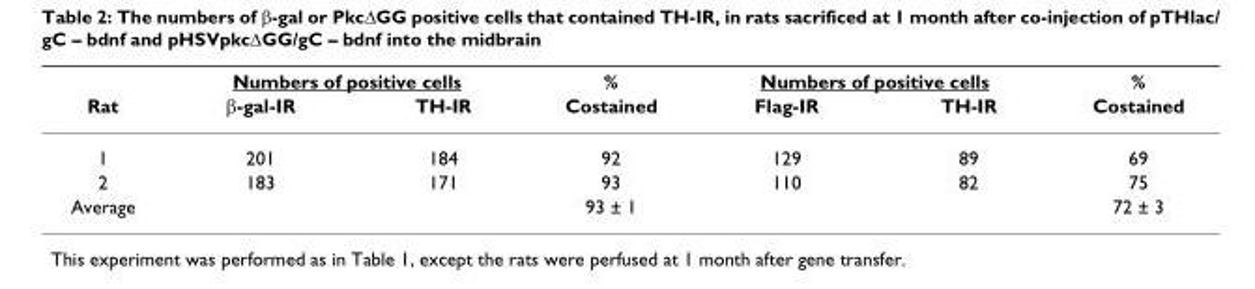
<table><thead><tr><td rowspan="2">Rat</td><td colspan="2">Numbers of positive cells</td><td rowspan="2">% Costained</td><td colspan="2">Numbers of positive cells</td><td rowspan="2">% Costained</td></tr><tr><td>β-gal-IR</td><td>TH-IR</td><td>Flag-IR</td><td>TH-IR</td></tr></thead><tbody><tr><td>1</td><td>201</td><td>184</td><td>92</td><td>129</td><td>89</td><td>69</td></tr><tr><td>2</td><td>183</td><td>171</td><td>93</td><td>110</td><td>82</td><td>75</td></tr><tr><td>Average</td><td></td><td></td><td>93 ± 1</td><td></td><td></td><td>72 ± 3</td></tr></tbody></table>